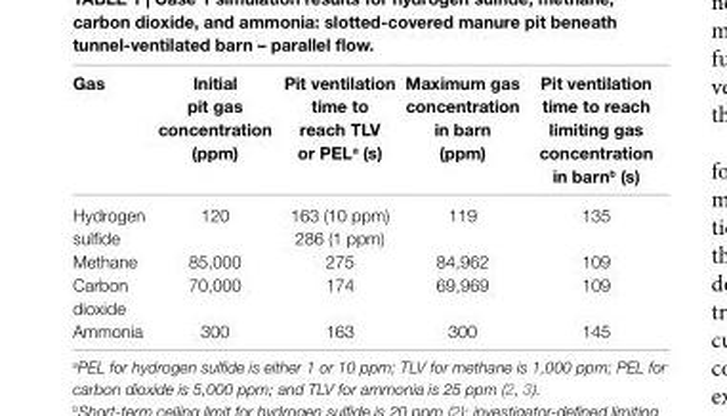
<table><thead><tr><td>gas</td><td>Initial pit gas concentration (ppm)</td><td>pit ventilation time to reach TlV or pel<sup>a</sup> (s)</td><td>Maximum gas concentration in barn (ppm)</td><td>pit ventilation time to reach limiting gas concentration in barn<sup>b</sup> (s)</td></tr></thead><tbody><tr><td rowspan="2">Hydrogen sulfide</td><td rowspan="2">120</td><td>163 (10 ppm)</td><td rowspan="2">119</td><td rowspan="2">135</td></tr><tr><td>286 (1 ppm)</td></tr><tr><td>Methane</td><td>85,000</td><td>275</td><td>84,962</td><td>109</td></tr><tr><td>Carbon dioxide</td><td>70,000</td><td>174</td><td>69,969</td><td>109</td></tr><tr><td>Ammonia</td><td>300</td><td>163</td><td>300</td><td>145</td></tr></tbody></table>